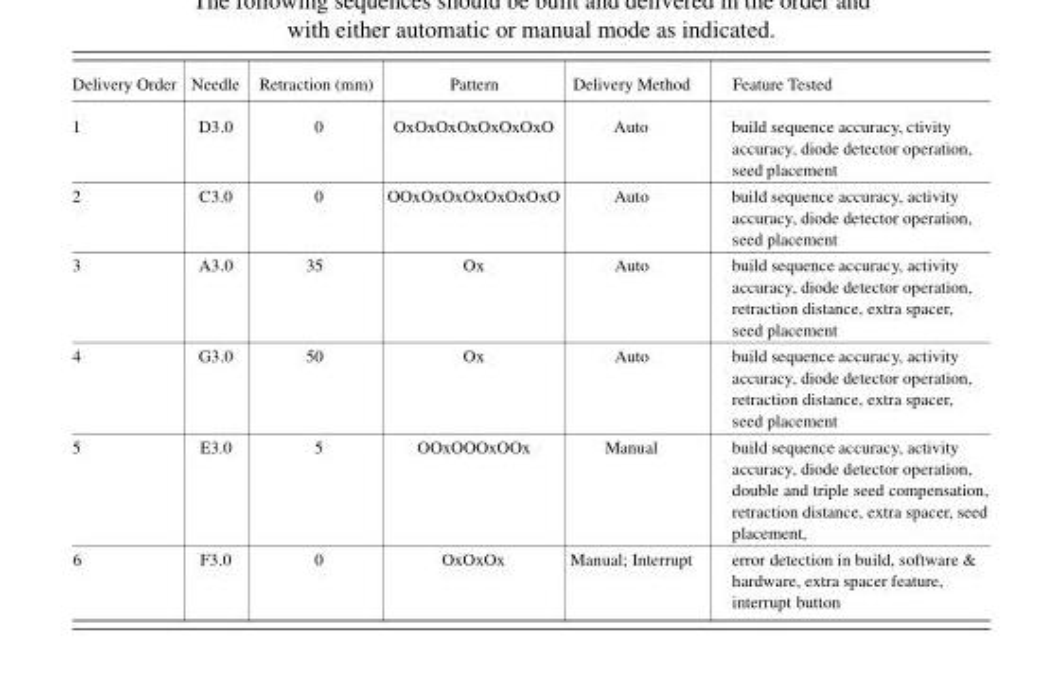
<table><thead><tr><td>Delivery Order</td><td>Needle</td><td>Retraction (mm)</td><td>Pattern</td><td>Delivery Method</td><td>Feature Tested</td></tr></thead><tbody><tr><td>1</td><td>D3.0</td><td>0</td><td>OxOxOxOxOxOxOxO</td><td>Auto</td><td>build sequence accuracy, ctivity accuracy, diode detector operation, seed placement</td></tr><tr><td>2</td><td>C3.0</td><td>0</td><td>OOxOxOxOxOxOxOxO</td><td>Auto</td><td>build sequence accuracy, activity accuracy, diode detector operation, seed placement</td></tr><tr><td>3</td><td>A3.0</td><td>35</td><td>Ox</td><td>Auto</td><td>build sequence accuracy, activity accuracy, diode detector operation, retraction distance, extra spacer, seed placement</td></tr><tr><td>4</td><td>G3.0</td><td>50</td><td>Ox</td><td>Auto</td><td>build sequence accuracy, activity accuracy, diode detector operation, retraction distance, extra spacer, seed placement</td></tr><tr><td>5</td><td>E3.0</td><td>5</td><td>OOxOOOxOOx</td><td>Manual</td><td>build sequence accuracy, activity accuracy, diode detector operation, double and triple seed compensation, retraction distance, extra spacer, seed placement,</td></tr><tr><td>6</td><td>F3.0</td><td>0</td><td>OxOxOx</td><td>Manual; Interrupt</td><td>error detection in build, software &amp; hardware, extra spacer feature, interrupt button</td></tr></tbody></table>